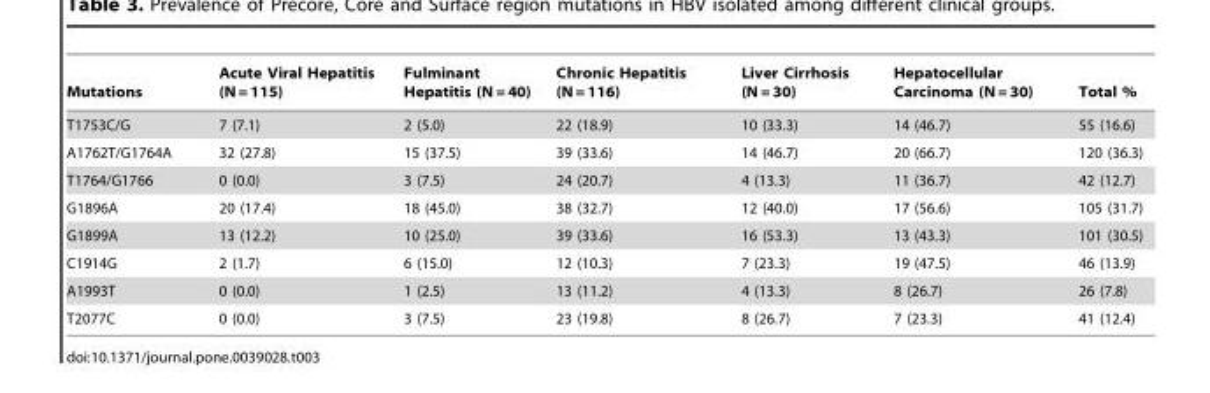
<table><thead><tr><td>Mutations</td><td>Acute Viral Hepatitis (N = 115)</td><td>Fulminant Hepatitis (N = 40)</td><td>Chronic Hepatitis (N = 116)</td><td>Liver Cirrhosis (N = 30)</td><td>Hepatocellular Carcinoma (N = 30)</td><td>Total %</td></tr></thead><tbody><tr><td>T1753C/G</td><td>7 (7.1)</td><td>2 (5.0)</td><td>22 (18.9)</td><td>10 (33.3)</td><td>14 (46.7)</td><td>55 (16.6)</td></tr><tr><td>A1762T/G1764A</td><td>32 (27.8)</td><td>15 (37.5)</td><td>39 (33.6)</td><td>14 (46.7)</td><td>20 (66.7)</td><td>120 (36.3)</td></tr><tr><td>T1764/G1766</td><td>0 (0.0)</td><td>3 (7.5)</td><td>24 (20.7)</td><td>4 (13.3)</td><td>11 (36.7)</td><td>42 (12.7)</td></tr><tr><td>G1896A</td><td>20 (17.4)</td><td>18 (45.0)</td><td>38 (32.7)</td><td>12 (40.0)</td><td>17 (56.6)</td><td>105 (31.7)</td></tr><tr><td>G1899A</td><td>13 (12.2)</td><td>10 (25.0)</td><td>39 (33.6)</td><td>16 (53.3)</td><td>13 (43.3)</td><td>101 (30.5)</td></tr><tr><td>C1914G</td><td>2 (1.7)</td><td>6 (15.0)</td><td>12 (10.3)</td><td>7 (23.3)</td><td>19 (47.5)</td><td>46 (13.9)</td></tr><tr><td>A1993T</td><td>0 (0.0)</td><td>1 (2.5)</td><td>13 (11.2)</td><td>4 (13.3)</td><td>8 (26.7)</td><td>26 (7.8)</td></tr><tr><td>T2077C</td><td>0 (0.0)</td><td>3 (7.5)</td><td>23 (19.8)</td><td>8 (26.7)</td><td>7 (23.3)</td><td>41 (12.4)</td></tr></tbody></table>